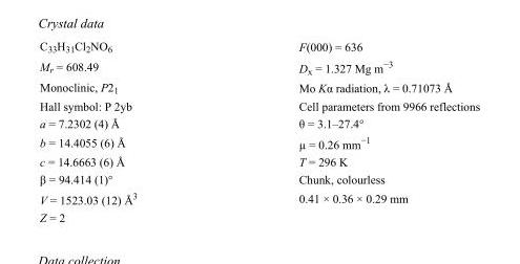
<table><tbody><tr><td>C<sub>33</sub>H<sub>31</sub>Cl<sub>2</sub>NO<sub>6</sub></td><td>F(000) = 636</td></tr><tr><td>M<sub>r</sub> = 608.49</td><td>D<sub>x</sub> = 1.327 Mg m<sup>−3</sup></td></tr><tr><td>Monoclinic, P2<sub>1</sub></td><td>Mo Kα radiation, λ = 0.71073 Å</td></tr><tr><td>Hall symbol: P 2yb</td><td>Cell parameters from 9966 reflections</td></tr><tr><td>a = 7.2302 (4) Å</td><td>θ = 3.1–27.4°</td></tr><tr><td>b = 14.4055 (6) Å</td><td>µ = 0.26 mm<sup>−1</sup></td></tr><tr><td>c = 14.6663 (6) Å</td><td>T = 296 K</td></tr><tr><td>β = 94.414 (1)°</td><td>Chunk, colourless</td></tr><tr><td>V = 1523.03 (12) Å<sup>3</sup></td><td>0.41 × 0.36 × 0.29 mm</td></tr><tr><td>Z = 2</td><td></td></tr></tbody></table>